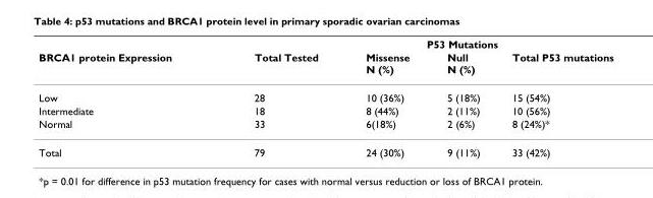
<table><thead><tr><td rowspan="2">BRCA1 protein Expression</td><td colspan="4">P53 Mutations</td></tr><tr><td>Total Tested</td><td>Missense N (%)</td><td>Null N (%)</td><td>Total P53 mutations</td></tr></thead><tbody><tr><td>Low</td><td>28</td><td>10 (36%)</td><td>5 (18%)</td><td>15 (54%)</td></tr><tr><td>Intermediate</td><td>18</td><td>8 (44%)</td><td>2 (11%)</td><td>10 (56%)</td></tr><tr><td>Normal</td><td>33</td><td>6(18%)</td><td>2 (6%)</td><td>8 (24%)*</td></tr><tr><td>Total</td><td>79</td><td>24 (30%)</td><td>9 (11%)</td><td>33 (42%)</td></tr></tbody></table>